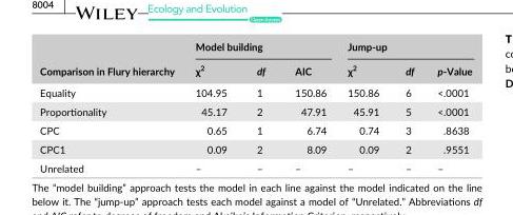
<table><thead><tr><td rowspan="2">Comparison in Flury hierarchy</td><td colspan="3">Model building</td><td colspan="3">Jump- up</td></tr><tr><td>χ<sup>2</sup></td><td>df</td><td>AIC</td><td>χ<sup>2</sup></td><td>df</td><td>p- Value</td></tr></thead><tbody><tr><td>Equality</td><td>104.95</td><td>1</td><td>150.86</td><td>150.86</td><td>6</td><td>&lt;.0001</td></tr><tr><td>Proportionality</td><td>45.17</td><td>2</td><td>47.91</td><td>45.91</td><td>5</td><td>&lt;.0001</td></tr><tr><td>CPC</td><td>0.65</td><td>1</td><td>6.74</td><td>0.74</td><td>3</td><td>.8638</td></tr><tr><td>CPC1</td><td>0.09</td><td>2</td><td>8.09</td><td>0.09</td><td>2</td><td>.9551</td></tr><tr><td>Unrelated</td><td>–</td><td>–</td><td>–</td><td>–</td><td>–</td><td>–</td></tr></tbody></table>